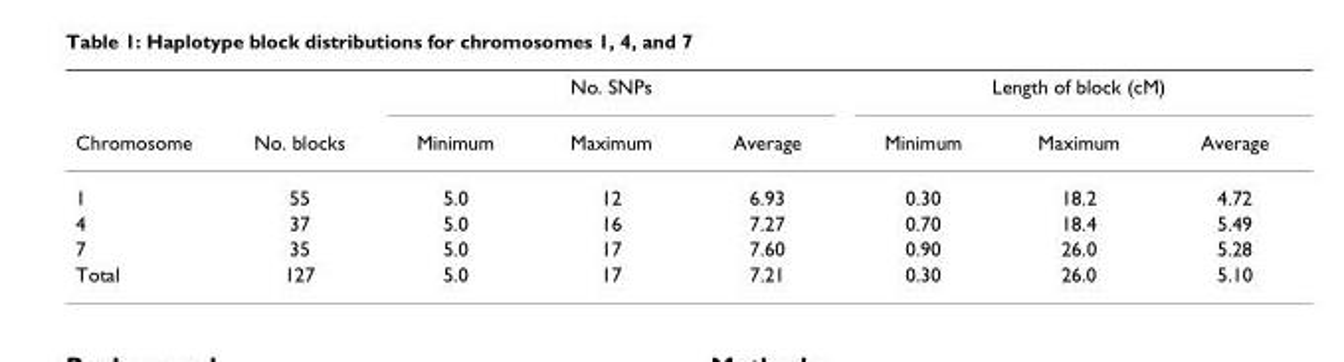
<table><thead><tr><td rowspan="2">Chromosome</td><td rowspan="2">No. blocks</td><td colspan="3">No. SNPs</td><td colspan="3">Length of block (cM)</td></tr><tr><td>Minimum</td><td>Maximum</td><td>Average</td><td>Minimum</td><td>Maximum</td><td>Average</td></tr></thead><tbody><tr><td>1</td><td>55</td><td>5.0</td><td>12</td><td>6.93</td><td>0.30</td><td>18.2</td><td>4.72</td></tr><tr><td>4</td><td>37</td><td>5.0</td><td>16</td><td>7.27</td><td>0.70</td><td>18.4</td><td>5.49</td></tr><tr><td>7</td><td>35</td><td>5.0</td><td>17</td><td>7.60</td><td>0.90</td><td>26.0</td><td>5.28</td></tr><tr><td>Total</td><td>127</td><td>5.0</td><td>17</td><td>7.21</td><td>0.30</td><td>26.0</td><td>5.10</td></tr></tbody></table>